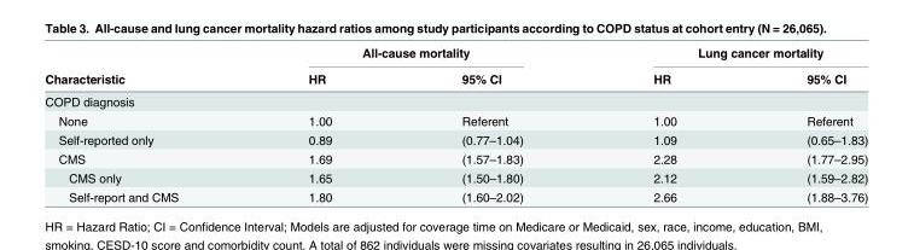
<table><thead><tr><td rowspan="2">Characteristic</td><td colspan="2">All-cause mortality</td><td colspan="2">Lung cancer mortality</td></tr><tr><td>HR</td><td>95% CI</td><td>HR</td><td>95% CI</td></tr></thead><tbody><tr><td colspan="5">COPD diagnosis</td></tr><tr><td>None</td><td>1.00</td><td>Referent</td><td>1.00</td><td>Referent</td></tr><tr><td>Self-reported only</td><td>0.89</td><td>(0.77–1.04)</td><td>1.09</td><td>(0.65–1.83)</td></tr><tr><td>CMS</td><td>1.69</td><td>(1.57–1.83)</td><td>2.28</td><td>(1.77–2.95)</td></tr><tr><td>CMS only</td><td>1.65</td><td>(1.50–1.80)</td><td>2.12</td><td>(1.59–2.82)</td></tr><tr><td>Self-report and CMS</td><td>1.80</td><td>(1.60–2.02)</td><td>2.66</td><td>(1.88–3.76)</td></tr></tbody></table>